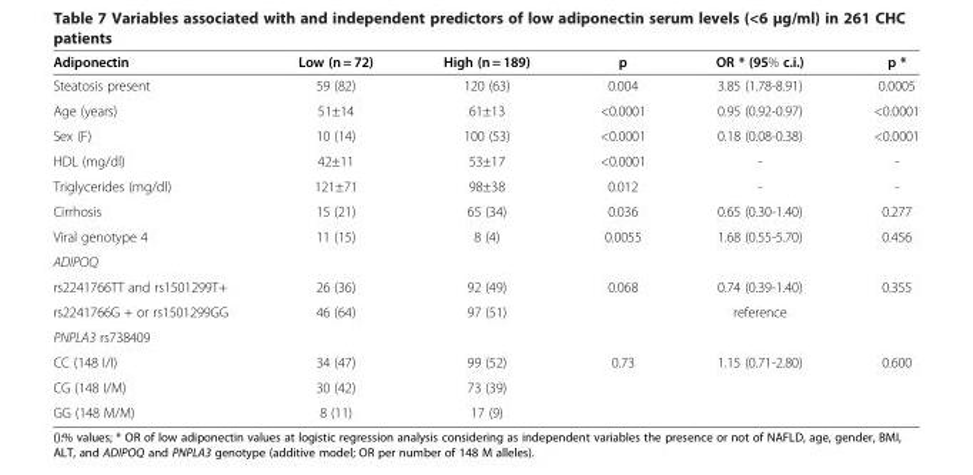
<table><thead><tr><td>Adiponectin</td><td>Low (n = 72)</td><td>High (n = 189)</td><td>p</td><td>OR * (95% c.i.)</td><td>p *</td></tr></thead><tbody><tr><td>Steatosis present</td><td>59 (82)</td><td>120 (63)</td><td>0.004</td><td>3.85 (1.78-8.91)</td><td>0.0005</td></tr><tr><td>Age (years)</td><td>51±14</td><td>61±13</td><td>&lt;0.0001</td><td>0.95 (0.92-0.97)</td><td>&lt;0.0001</td></tr><tr><td>Sex (F)</td><td>10 (14)</td><td>100 (53)</td><td>&lt;0.0001</td><td>0.18 (0.08-0.38)</td><td>&lt;0.0001</td></tr><tr><td>HDL (mg/dl)</td><td>42±11</td><td>53±17</td><td>&lt;0.0001</td><td>-</td><td>-</td></tr><tr><td>Triglycerides (mg/dl)</td><td>121±71</td><td>98±38</td><td>0.012</td><td>-</td><td>-</td></tr><tr><td>Cirrhosis</td><td>15 (21)</td><td>65 (34)</td><td>0.036</td><td>0.65 (0.30-1.40)</td><td>0.277</td></tr><tr><td>Viral genotype 4</td><td>11 (15)</td><td>8 (4)</td><td>0.0055</td><td>1.68 (0.55-5.70)</td><td>0.456</td></tr><tr><td colspan="6">ADIPOQ</td></tr><tr><td>rs2241766TT and rs1501299T+</td><td>26 (36)</td><td>92 (49)</td><td>0.068</td><td>0.74 (0.39-1.40)</td><td>0.355</td></tr><tr><td>rs2241766G + or rs1501299GG</td><td>46 (64)</td><td>97 (51)</td><td></td><td>reference</td><td></td></tr><tr><td colspan="6">PNPLA3 rs738409</td></tr><tr><td>CC (148 I/I)</td><td>34 (47)</td><td>99 (52)</td><td>0.73</td><td>1.15 (0.71-2.80)</td><td>0.600</td></tr><tr><td>CG (148 I/M)</td><td>30 (42)</td><td>73 (39)</td><td></td><td></td><td></td></tr><tr><td>GG (148 M/M)</td><td>8 (11)</td><td>17 (9)</td><td></td><td></td><td></td></tr></tbody></table>